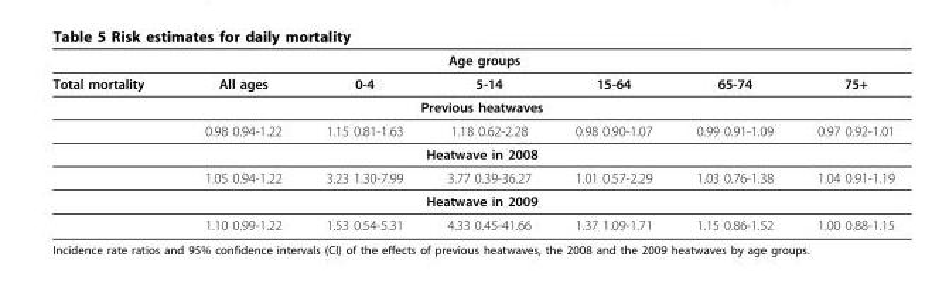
<table><thead><tr><td colspan="7">Age groups</td></tr><tr><td>Total mortality</td><td>All ages</td><td>0-4</td><td>5-14</td><td>15-64</td><td>65-74</td><td>75+</td></tr></thead><tbody><tr><td colspan="7">Previous heatwaves</td></tr><tr><td></td><td>0.98 0.94-1.22</td><td>1.15 0.81-1.63</td><td>1.18 0.62-2.28</td><td>0.98 0.90-1.07</td><td>0.99 0.91-1.09</td><td>0.97 0.92-1.01</td></tr><tr><td colspan="7">Heatwave in 2008</td></tr><tr><td></td><td>1.05 0.94-1.22</td><td>3.23 1.30-7.99</td><td>3.77 0.39-36.27</td><td>1.01 0.57-2.29</td><td>1.03 0.76-1.38</td><td>1.04 0.91-1.19</td></tr><tr><td colspan="7">Heatwave in 2009</td></tr><tr><td></td><td>1.10 0.99-1.22</td><td>1.53 0.54-5.31</td><td>4.33 0.45-41.66</td><td>1.37 1.09-1.71</td><td>1.15 0.86-1.52</td><td>1.00 0.88-1.15</td></tr></tbody></table>